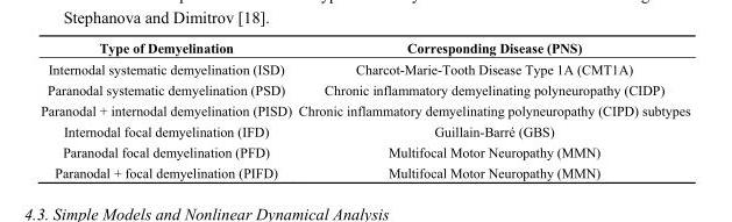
<table><thead><tr><td>Type of Demyelination</td><td>Corresponding Disease (PNS)</td></tr></thead><tbody><tr><td>Internodal systematic demyelination (ISD)</td><td>Charcot-Marie-Tooth Disease Type 1A (CMT1A)</td></tr><tr><td>Paranodal systematic demyelination (PSD)</td><td>Chronic inflammatory demyelinating polyneuropathy (CIDP)</td></tr><tr><td>Paranodal + internodal demyelination (PISD)</td><td>Chronic inflammatory demyelinating polyneuropathy (CIPD) subtypes</td></tr><tr><td>Internodal focal demyelination (IFD)</td><td>Guillain-Barré (GBS)</td></tr><tr><td>Paranodal focal demyelination (PFD)</td><td>Multifocal Motor Neuropathy (MMN)</td></tr><tr><td>Paranodal + focal demyelination (PIFD)</td><td>Multifocal Motor Neuropathy (MMN)</td></tr></tbody></table>